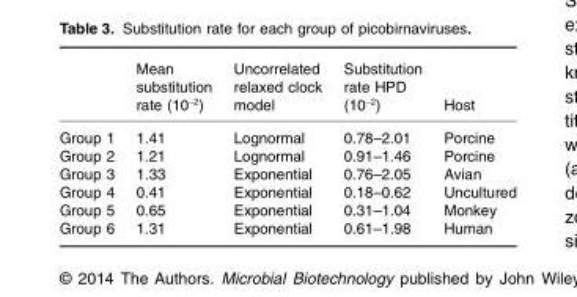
<table><thead><tr><td></td><td>Mean substitution rate (10<sup>−2</sup>)</td><td>Uncorrelated relaxed clock model</td><td>Substitution rate HPD (10<sup>−2</sup>)</td><td>Host</td></tr></thead><tbody><tr><td>Group 1</td><td>1.41</td><td>Lognormal</td><td>0.78–2.01</td><td>Porcine</td></tr><tr><td>Group 2</td><td>1.21</td><td>Lognormal</td><td>0.91–1.46</td><td>Porcine</td></tr><tr><td>Group 3</td><td>1.33</td><td>Exponential</td><td>0.76–2.05</td><td>Avian</td></tr><tr><td>Group 4</td><td>0.41</td><td>Exponential</td><td>0.18–0.62</td><td>Uncultured</td></tr><tr><td>Group 5</td><td>0.65</td><td>Exponential</td><td>0.31–1.04</td><td>Monkey</td></tr><tr><td>Group 6</td><td>1.31</td><td>Exponential</td><td>0.61–1.98</td><td>Human</td></tr></tbody></table>